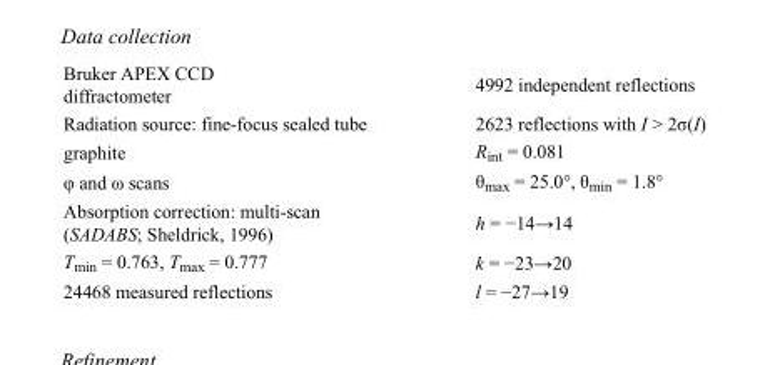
<table><tbody><tr><td>Bruker APEX CCD diffractometer</td><td>4992 independent reflections</td></tr><tr><td>Radiation source: fine-focus sealed tube</td><td>2623 reflections with I &gt; 2σ(I)</td></tr><tr><td>graphite</td><td>R<sub>int</sub> = 0.081</td></tr><tr><td>φ and ω scans</td><td>θ<sub>max</sub> = 25.0°, θ<sub>min</sub> = 1.8°</td></tr><tr><td>Absorption correction: multi-scan (SADABS; Sheldrick, 1996)</td><td>h = −14→14</td></tr><tr><td>T<sub>min</sub> = 0.763, T<sub>max</sub> = 0.777</td><td>k = −23→20</td></tr><tr><td>24468 measured reflections</td><td>l = −27→19</td></tr></tbody></table>